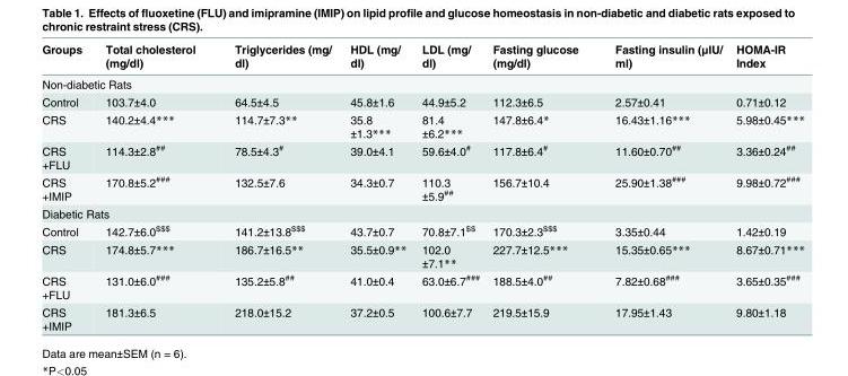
<table><thead><tr><td>Groups</td><td>Total cholesterol (mg/dl)</td><td>Triglycerides (mg/ dl)</td><td>HDL (mg/ dl)</td><td>LDL (mg/ dl)</td><td>Fasting glucose (mg/dl)</td><td>Fasting insulin (μIU/ ml)</td><td>HOMA-IR Index</td></tr></thead><tbody><tr><td colspan="8">Non-diabetic Rats</td></tr><tr><td>Control</td><td>103.7±4.0</td><td>64.5±4.5</td><td>45.8±1.6</td><td>44.9±5.2</td><td>112.3±6.5</td><td>2.57±0.41</td><td>0.71±0.12</td></tr><tr><td>CRS</td><td>140.2±4.4***</td><td>114.7±7.3**</td><td>35.8 ±1.3***</td><td>81.4 ±6.2***</td><td>147.8±6.4*</td><td>16.43±1.16***</td><td>5.98±0.45***</td></tr><tr><td>CRS +FLU</td><td>114.3±2.8<sup>##</sup></td><td>78.5±4.3<sup>#</sup></td><td>39.0±4.1</td><td>59.6±4.0<sup>#</sup></td><td>117.8±6.4<sup>#</sup></td><td>11.60±0.70<sup>##</sup></td><td>3.36±0.24<sup>##</sup></td></tr><tr><td>CRS +IMIP</td><td>170.8±5.2<sup>###</sup></td><td>132.5±7.6</td><td>34.3±0.7</td><td>110.3 ±5.9<sup>##</sup></td><td>156.7±10.4</td><td>25.90±1.38<sup>###</sup></td><td>9.98±0.72<sup>###</sup></td></tr><tr><td colspan="8">Diabetic Rats</td></tr><tr><td>Control</td><td>142.7±6.0<sup>$$$</sup></td><td>141.2±13.8<sup>$$$</sup></td><td>43.7±0.7</td><td>70.8±7.1<sup>$$</sup></td><td>170.3±2.3<sup>$$$</sup></td><td>3.35±0.44</td><td>1.42±0.19</td></tr><tr><td>CRS</td><td>174.8±5.7***</td><td>186.7±16.5**</td><td>35.5±0.9**</td><td>102.0 ±7.1**</td><td>227.7±12.5***</td><td>15.35±0.65***</td><td>8.67±0.71***</td></tr><tr><td>CRS +FLU</td><td>131.0±6.0<sup>###</sup></td><td>135.2±5.8<sup>##</sup></td><td>41.0±0.4</td><td>63.0±6.7<sup>###</sup></td><td>188.5±4.0<sup>##</sup></td><td>7.82±0.68<sup>###</sup></td><td>3.65±0.35<sup>###</sup></td></tr><tr><td>CRS +IMIP</td><td>181.3±6.5</td><td>218.0±15.2</td><td>37.2±0.5</td><td>100.6±7.7</td><td>219.5±15.9</td><td>17.95±1.43</td><td>9.80±1.18</td></tr></tbody></table>